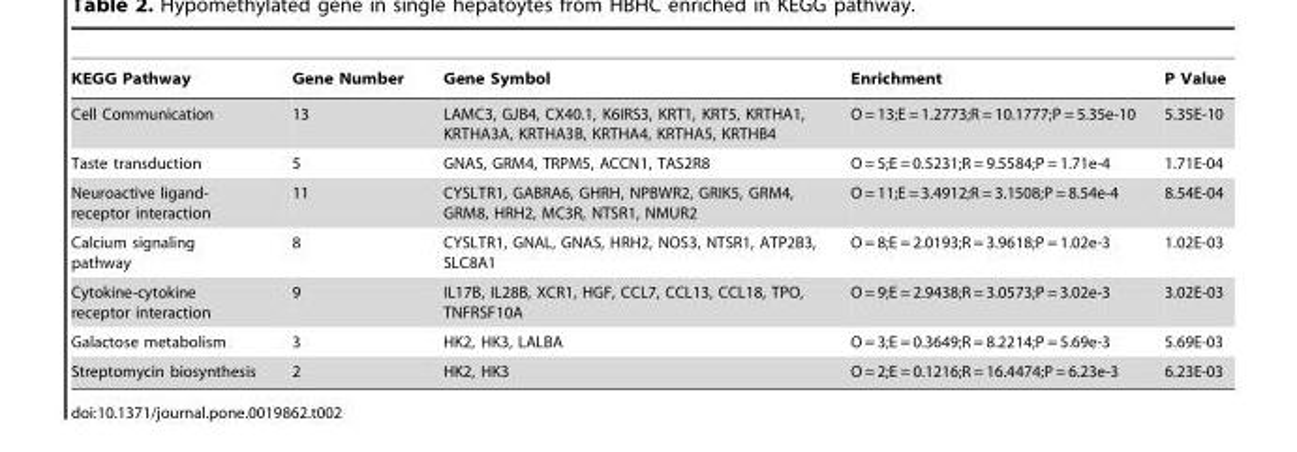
<table><thead><tr><td>KEGG Pathway</td><td>Gene Number</td><td>Gene Symbol</td><td>Enrichment</td><td>P Value</td></tr></thead><tbody><tr><td>Cell Communication</td><td>13</td><td>LAMC3, GJB4, CX40.1, K6IRS3, KRT1, KRT5, KRTHA1, KRTHA3A, KRTHA3B, KRTHA4, KRTHA5, KRTHB4</td><td>O = 13;E = 1.2773;R = 10.1777;P = 5.35e-10</td><td>5.35E-10</td></tr><tr><td>Taste transduction</td><td>5</td><td>GNAS, GRM4, TRPM5, ACCN1, TAS2R8</td><td>O = 5;E = 0.5231;R = 9.5584;P = 1.71e-4</td><td>1.71E-04</td></tr><tr><td>Neuroactive ligand- receptor interaction</td><td>11</td><td>CYSLTR1, GABRA6, GHRH, NPBWR2, GRIK5, GRM4, GRM8, HRH2, MC3R, NTSR1, NMUR2</td><td>O = 11;E = 3.4912;R = 3.1508;P = 8.54e-4</td><td>8.54E-04</td></tr><tr><td>Calcium signaling pathway</td><td>8</td><td>CYSLTR1, GNAL, GNAS, HRH2, NOS3, NTSR1, ATP2B3, SLC8A1</td><td>O = 8;E = 2.0193;R = 3.9618;P = 1.02e-3</td><td>1.02E-03</td></tr><tr><td>Cytokine-cytokine receptor interaction</td><td>9</td><td>IL17B, IL28B, XCR1, HGF, CCL7, CCL13, CCL18, TPO, TNFRSF10A</td><td>O = 9;E = 2.9438;R = 3.0573;P = 3.02e-3</td><td>3.02E-03</td></tr><tr><td>Galactose metabolism</td><td>3</td><td>HK2, HK3, LALBA</td><td>O = 3;E = 0.3649;R = 8.2214;P = 5.69e-3</td><td>5.69E-03</td></tr><tr><td>Streptomycin biosynthesis</td><td>2</td><td>HK2, HK3</td><td>O = 2;E = 0.1216;R = 16.4474;P = 6.23e-3</td><td>6.23E-03</td></tr></tbody></table>